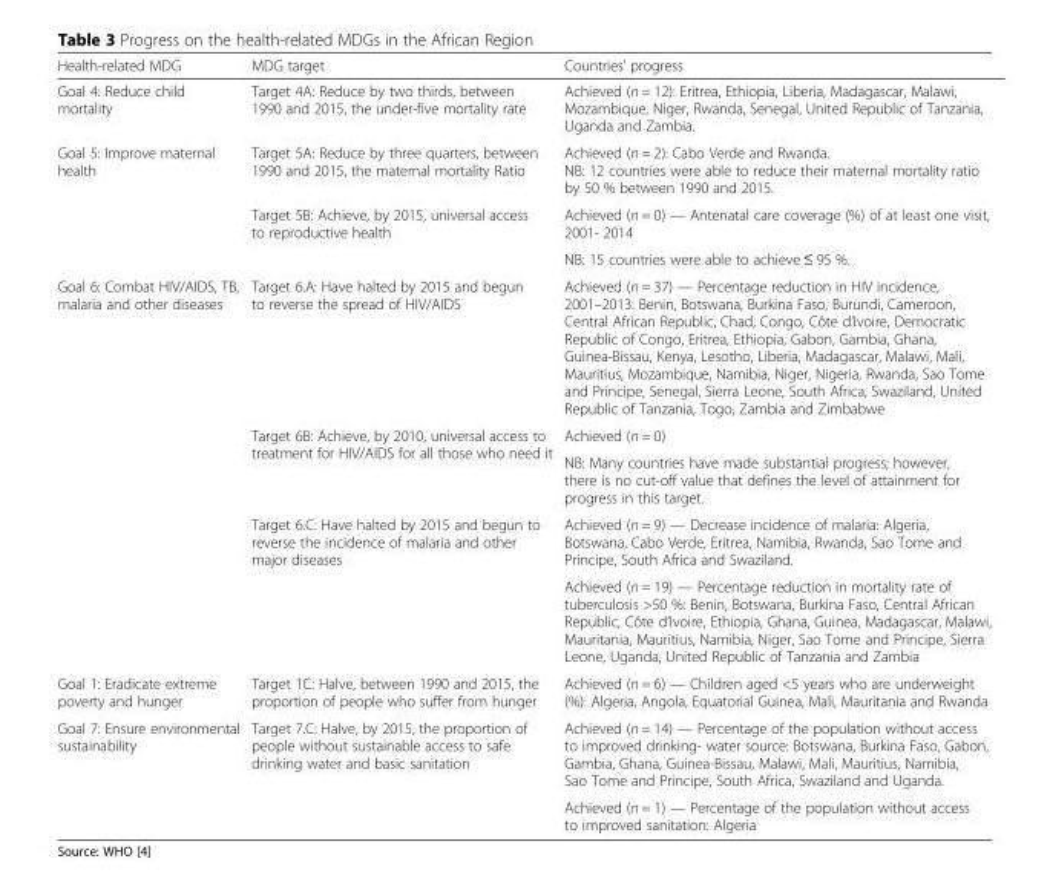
<table><thead><tr><td>Health-related MDG</td><td>MDG target</td><td>Countries’ progress</td></tr></thead><tbody><tr><td>Goal 4: Reduce child mortality</td><td>Target 4A: Reduce by two thirds, between 1990 and 2015, the under-five mortality rate</td><td>Achieved (n = 12): Eritrea, Ethiopia, Liberia, Madagascar, Malawi, Mozambique, Niger, Rwanda, Senegal, United Republic of Tanzania, Uganda and Zambia.</td></tr><tr><td rowspan="3">Goal 5: Improve maternal health</td><td>Target 5A: Reduce by three quarters, between 1990 and 2015, the maternal mortality Ratio</td><td>Achieved (n = 2): Cabo Verde and Rwanda. NB: 12 countries were able to reduce their maternal mortality ratio by 50 % between 1990 and 2015.</td></tr><tr><td rowspan="2">Target 5B: Achieve, by 2015, universal access to reproductive health</td><td>Achieved (n = 0) — Antenatal care coverage (%) of at least one visit, 2001- 2014</td></tr><tr><td>NB: 15 countries were able to achieve ≤ 95 %.</td></tr><tr><td rowspan="5">Goal 6: Combat HIV/AIDS, TB, malaria and other diseases</td><td>Target 6.A: Have halted by 2015 and begun to reverse the spread of HIV/AIDS</td><td>Achieved (n = 37) — Percentage reduction in HIV incidence, 2001–2013: Benin, Botswana, Burkina Faso, Burundi, Cameroon, Central African Republic, Chad, Congo, Côte d’Ivoire, Democratic Republic of Congo, Eritrea, Ethiopia, Gabon, Gambia, Ghana, Guinea-Bissau, Kenya, Lesotho, Liberia, Madagascar, Malawi, Mali, Mauritius, Mozambique, Namibia, Niger, Nigeria, Rwanda, Sao Tome and Principe, Senegal, Sierra Leone, South Africa, Swaziland, United Republic of Tanzania, Togo, Zambia and Zimbabwe</td></tr><tr><td rowspan="2">Target 6B: Achieve, by 2010, universal access to treatment for HIV/AIDS for all those who need it</td><td>Achieved (n = 0)</td></tr><tr><td>NB: Many countries have made substantial progress; however, there is no cut-off value that defines the level of attainment for progress in this target.</td></tr><tr><td rowspan="2">Target 6.C: Have halted by 2015 and begun to reverse the incidence of malaria and other major diseases</td><td>Achieved (n = 9) — Decrease incidence of malaria: Algeria, Botswana, Cabo Verde, Eritrea, Namibia, Rwanda, Sao Tome and Principe, South Africa and Swaziland.</td></tr><tr><td>Achieved (n = 19) — Percentage reduction in mortality rate of tuberculosis &gt;50 %: Benin, Botswana, Burkina Faso, Central African Republic, Côte d’Ivoire, Ethiopia, Ghana, Guinea, Madagascar, Malawi, Mauritania, Mauritius, Namibia, Niger, Sao Tome and Principe, Sierra Leone, Uganda, United Republic of Tanzania and Zambia</td></tr><tr><td>Goal 1: Eradicate extreme poverty and hunger</td><td>Target 1C: Halve, between 1990 and 2015, the proportion of people who suffer from hunger</td><td>Achieved (n = 6) — Children aged &lt;5 years who are underweight (%): Algeria, Angola, Equatorial Guinea, Mali, Mauritania and Rwanda</td></tr><tr><td rowspan="2">Goal 7: Ensure environmental sustainability</td><td rowspan="2">Target 7.C: Halve, by 2015, the proportion of people without sustainable access to safe drinking water and basic sanitation</td><td>Achieved (n = 14) — Percentage of the population without access to improved drinking- water source: Botswana, Burkina Faso, Gabon, Gambia, Ghana, Guinea-Bissau, Malawi, Mali, Mauritius, Namibia, Sao Tome and Principe, South Africa, Swaziland and Uganda.</td></tr><tr><td>Achieved (n = 1) — Percentage of the population without access to improved sanitation: Algeria</td></tr></tbody></table>